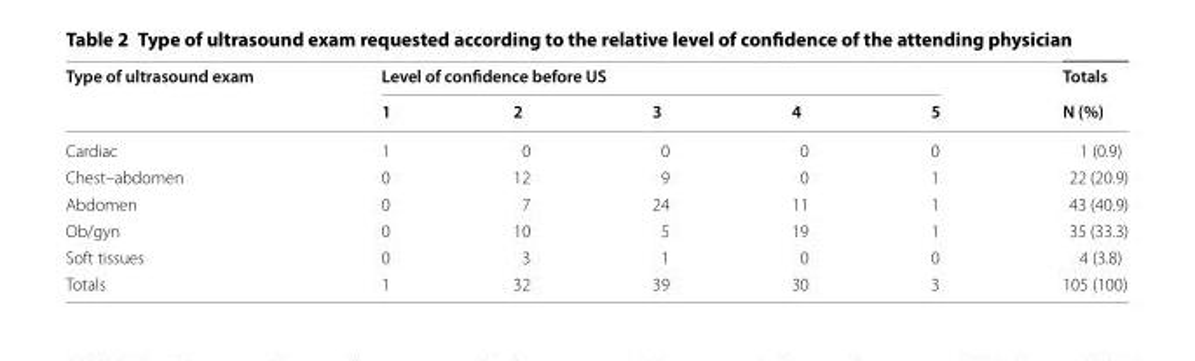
<table><thead><tr><td rowspan="2">Type of ultrasound exam</td><td colspan="5">Level of confidence before US</td><td rowspan="2">Totals N (%)</td></tr><tr><td>1</td><td>2</td><td>3</td><td>4</td><td>5</td></tr></thead><tbody><tr><td>Cardiac</td><td>1</td><td>0</td><td>0</td><td>0</td><td>0</td><td>1 (0.9)</td></tr><tr><td>Chest–abdomen</td><td>0</td><td>12</td><td>9</td><td>0</td><td>1</td><td>22 (20.9)</td></tr><tr><td>Abdomen</td><td>0</td><td>7</td><td>24</td><td>11</td><td>1</td><td>43 (40.9)</td></tr><tr><td>Ob/gyn</td><td>0</td><td>10</td><td>5</td><td>19</td><td>1</td><td>35 (33.3)</td></tr><tr><td>Soft tissues</td><td>0</td><td>3</td><td>1</td><td>0</td><td>0</td><td>4 (3.8)</td></tr><tr><td>Totals</td><td>1</td><td>32</td><td>39</td><td>30</td><td>3</td><td>105 (100)</td></tr></tbody></table>